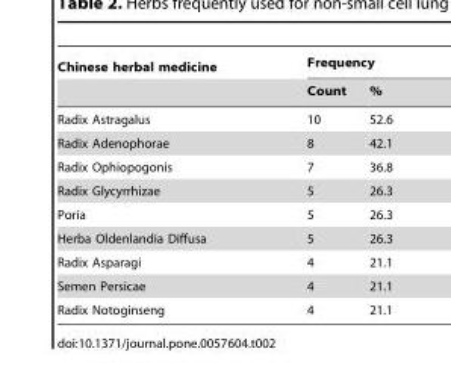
<table><thead><tr><td rowspan="2">Chinese herbal medicine</td><td colspan="2">Frequency</td></tr><tr><td>Count</td><td>%</td></tr></thead><tbody><tr><td>Radix Astragalus</td><td>10</td><td>52.6</td></tr><tr><td>Radix Adenophorae</td><td>8</td><td>42.1</td></tr><tr><td>Radix Ophiopogonis</td><td>7</td><td>36.8</td></tr><tr><td>Radix Glycyrrhizae</td><td>5</td><td>26.3</td></tr><tr><td>Poria</td><td>5</td><td>26.3</td></tr><tr><td>Herba Oldenlandia Diffusa</td><td>5</td><td>26.3</td></tr><tr><td>Radix Asparagi</td><td>4</td><td>21.1</td></tr><tr><td>Semen Persicae</td><td>4</td><td>21.1</td></tr><tr><td>Radix Notoginseng</td><td>4</td><td>21.1</td></tr></tbody></table>